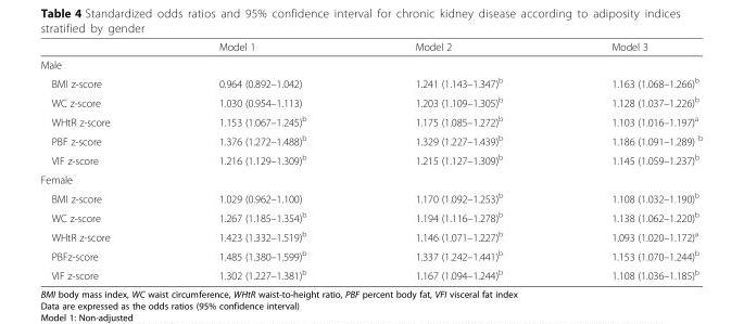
<table><thead><tr><td></td><td>Model 1</td><td>Model 2</td><td>Model 3</td></tr></thead><tbody><tr><td colspan="4">Male</td></tr><tr><td>BMI z-score</td><td>0.964 (0.892–1.042)</td><td>1.241 (1.143–1.347)<sup>b</sup></td><td>1.163 (1.068–1.266)<sup>b</sup></td></tr><tr><td>WC z-score</td><td>1.030 (0.954–1.113)</td><td>1.203 (1.109–1.305)<sup>b</sup></td><td>1.128 (1.037–1.226)<sup>b</sup></td></tr><tr><td>WHtR z-score</td><td>1.153 (1.067–1.245)<sup>b</sup></td><td>1.175 (1.085–1.272)<sup>b</sup></td><td>1.103 (1.016–1.197)<sup>a</sup></td></tr><tr><td>PBF z-score</td><td>1.376 (1.272–1.488)<sup>b</sup></td><td>1.329 (1.227–1.439)<sup>b</sup></td><td>1.186 (1.091–1.289) <sup>b</sup></td></tr><tr><td>VIF z-score</td><td>1.216 (1.129–1.309)<sup>b</sup></td><td>1.215 (1.127–1.309)<sup>b</sup></td><td>1.145 (1.059–1.237)<sup>b</sup></td></tr><tr><td colspan="4">Female</td></tr><tr><td>BMI z-score</td><td>1.029 (0.962–1.100)</td><td>1.170 (1.092–1.253)<sup>b</sup></td><td>1.108 (1.032–1.190)<sup>b</sup></td></tr><tr><td>WC z-score</td><td>1.267 (1.185–1.354)<sup>b</sup></td><td>1.194 (1.116–1.278)<sup>b</sup></td><td>1.138 (1.062–1.220)<sup>b</sup></td></tr><tr><td>WHtR z-score</td><td>1.423 (1.332–1.519)<sup>b</sup></td><td>1.146 (1.071–1.227)<sup>b</sup></td><td>1.093 (1.020–1.172)<sup>a</sup></td></tr><tr><td>PBFz-score</td><td>1.485 (1.380–1.599)<sup>b</sup></td><td>1.337 (1.242–1.441)<sup>b</sup></td><td>1.153 (1.070–1.244)<sup>b</sup></td></tr><tr><td>VIF z-score</td><td>1.302 (1.227–1.381)<sup>b</sup></td><td>1.167 (1.094–1.244)<sup>b</sup></td><td>1.108 (1.036–1.185)<sup>b</sup></td></tr></tbody></table>